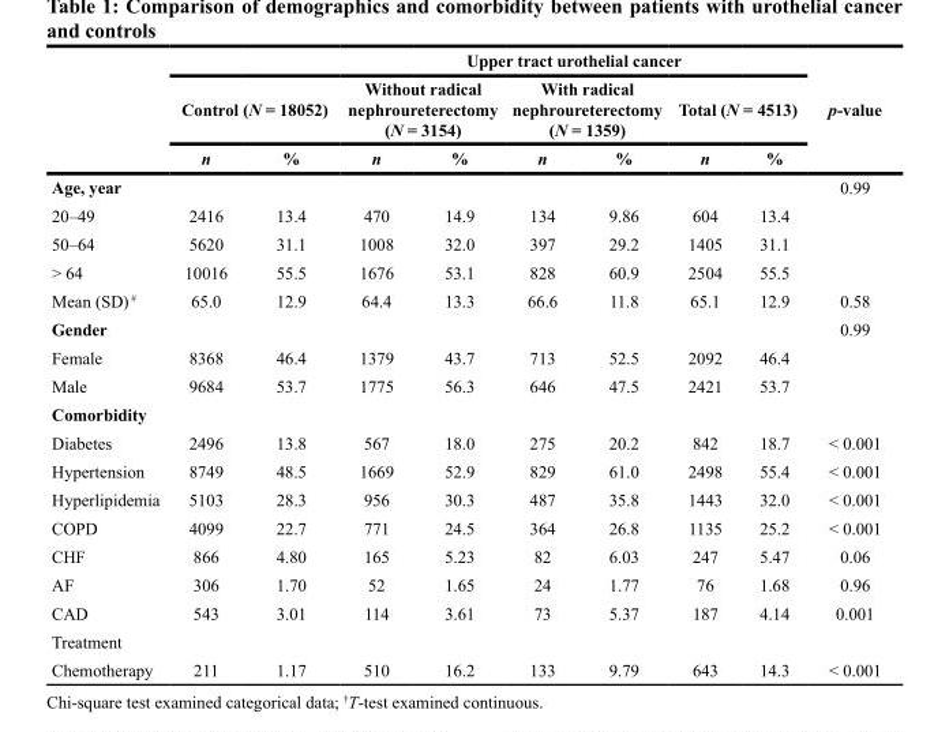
<table><thead><tr><td rowspan="3"></td><td></td><td></td><td colspan="6">Upper tract urothelial cancer</td><td rowspan="3">p-value</td></tr><tr><td colspan="2">Control (N = 18052)</td><td colspan="2">Without radical nephroureterectomy (N = 3154)</td><td colspan="2">With radical nephroureterectomy (N = 1359)</td><td colspan="2">Total (N = 4513)</td></tr><tr><td>n</td><td>%</td><td>n</td><td>%</td><td>n</td><td>%</td><td>n</td><td>%</td></tr></thead><tbody><tr><td>Age, year</td><td></td><td></td><td></td><td></td><td></td><td></td><td></td><td></td><td>0.99</td></tr><tr><td>20–49</td><td>2416</td><td>13.4</td><td>470</td><td>14.9</td><td>134</td><td>9.86</td><td>604</td><td>13.4</td><td></td></tr><tr><td>50–64</td><td>5620</td><td>31.1</td><td>1008</td><td>32.0</td><td>397</td><td>29.2</td><td>1405</td><td>31.1</td><td></td></tr><tr><td>&gt; 64</td><td>10016</td><td>55.5</td><td>1676</td><td>53.1</td><td>828</td><td>60.9</td><td>2504</td><td>55.5</td><td></td></tr><tr><td>Mean (SD) <sup>#</sup></td><td>65.0</td><td>12.9</td><td>64.4</td><td>13.3</td><td>66.6</td><td>11.8</td><td>65.1</td><td>12.9</td><td>0.58</td></tr><tr><td>Gender</td><td></td><td></td><td></td><td></td><td></td><td></td><td></td><td></td><td>0.99</td></tr><tr><td>Female</td><td>8368</td><td>46.4</td><td>1379</td><td>43.7</td><td>713</td><td>52.5</td><td>2092</td><td>46.4</td><td></td></tr><tr><td>Male</td><td>9684</td><td>53.7</td><td>1775</td><td>56.3</td><td>646</td><td>47.5</td><td>2421</td><td>53.7</td><td></td></tr><tr><td colspan="10">Comorbidity</td></tr><tr><td>Diabetes</td><td>2496</td><td>13.8</td><td>567</td><td>18.0</td><td>275</td><td>20.2</td><td>842</td><td>18.7</td><td>&lt; 0.001</td></tr><tr><td>Hypertension</td><td>8749</td><td>48.5</td><td>1669</td><td>52.9</td><td>829</td><td>61.0</td><td>2498</td><td>55.4</td><td>&lt; 0.001</td></tr><tr><td>Hyperlipidemia</td><td>5103</td><td>28.3</td><td>956</td><td>30.3</td><td>487</td><td>35.8</td><td>1443</td><td>32.0</td><td>&lt; 0.001</td></tr><tr><td>COPD</td><td>4099</td><td>22.7</td><td>771</td><td>24.5</td><td>364</td><td>26.8</td><td>1135</td><td>25.2</td><td>&lt; 0.001</td></tr><tr><td>CHF</td><td>866</td><td>4.80</td><td>165</td><td>5.23</td><td>82</td><td>6.03</td><td>247</td><td>5.47</td><td>0.06</td></tr><tr><td>AF</td><td>306</td><td>1.70</td><td>52</td><td>1.65</td><td>24</td><td>1.77</td><td>76</td><td>1.68</td><td>0.96</td></tr><tr><td>CAD</td><td>543</td><td>3.01</td><td>114</td><td>3.61</td><td>73</td><td>5.37</td><td>187</td><td>4.14</td><td>0.001</td></tr><tr><td colspan="10">Treatment</td></tr><tr><td>Chemotherapy</td><td>211</td><td>1.17</td><td>510</td><td>16.2</td><td>133</td><td>9.79</td><td>643</td><td>14.3</td><td>&lt; 0.001</td></tr></tbody></table>